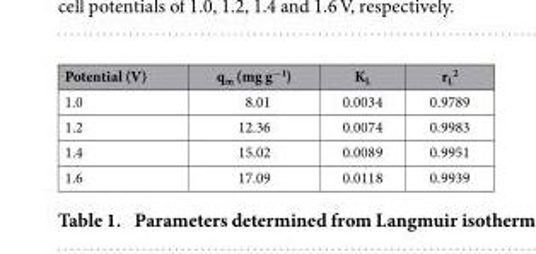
<table><thead><tr><td>Potential (V)</td><td>q<sub>m</sub> (mg g<sup>−1</sup>)</td><td>KL</td><td>rL <sup>2</sup></td></tr></thead><tbody><tr><td>1.0</td><td>8.01</td><td>0.0034</td><td>0.9789</td></tr><tr><td>1.2</td><td>12.36</td><td>0.0074</td><td>0.9983</td></tr><tr><td>1.4</td><td>15.02</td><td>0.0089</td><td>0.9951</td></tr><tr><td>1.6</td><td>17.09</td><td>0.0118</td><td>0.9939</td></tr></tbody></table>